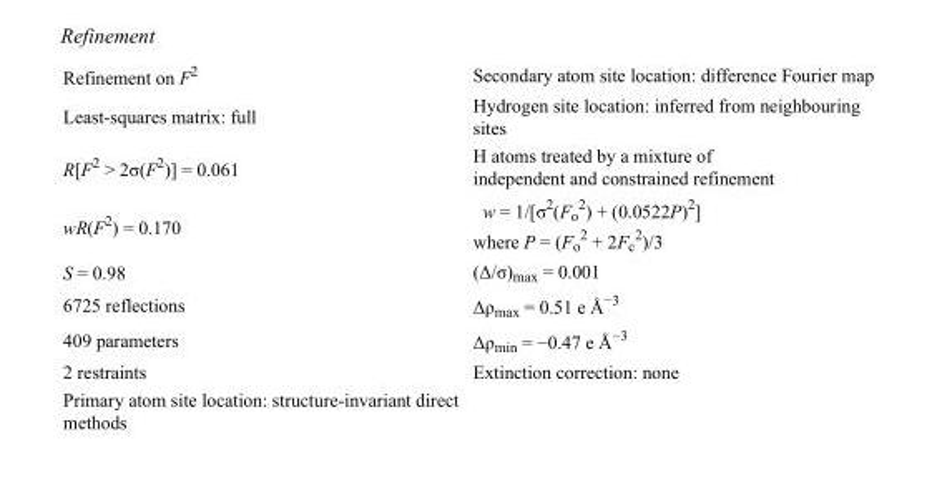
<table><tbody><tr><td>Refinement on F<sup>2</sup></td><td>Secondary atom site location: difference Fourier map</td></tr><tr><td>Least-squares matrix: full</td><td>Hydrogen site location: inferred from neighbouring sites</td></tr><tr><td>R[F<sup>2</sup> &gt; 2σ(F<sup>2</sup>)] = 0.061</td><td>H atoms treated by a mixture of independent and constrained refinement</td></tr><tr><td>wR(F<sup>2</sup>) = 0.170</td><td>w = 1/[σ<sup>2</sup>(F<sub>o</sub> <sup>2</sup>) + (0.0522P)<sup>2</sup>] where P = (F<sub>o</sub> <sup>2</sup> + 2F<sub>c</sub> <sup>2</sup>)/3</td></tr><tr><td>S = 0.98</td><td>(Δ/σ)<sub>max</sub> = 0.001</td></tr><tr><td>6725 reflections</td><td>Δρ<sub>max</sub> = 0.51 e Å<sup>−3</sup></td></tr><tr><td>409 parameters</td><td>Δρ<sub>min</sub> = −0.47 e Å<sup>−3</sup></td></tr><tr><td>2 restraints</td><td>Extinction correction: none</td></tr><tr><td>Primary atom site location: structure-invariant direct methods</td><td></td></tr></tbody></table>